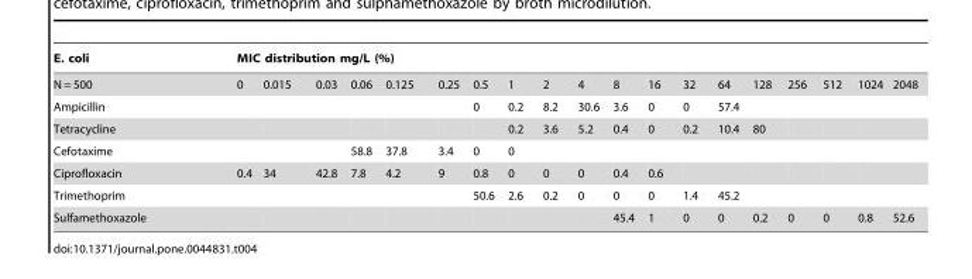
<table><thead><tr><td rowspan="2">E. coli N = 500</td><td colspan="19">MIC distribution mg/L (%)</td></tr><tr><td>0</td><td>0.015</td><td>0.03</td><td>0.06</td><td>0.125</td><td>0.25</td><td>0.5</td><td>1</td><td>2</td><td>4</td><td>8</td><td>16</td><td>32</td><td>64</td><td>128</td><td>256</td><td>512</td><td>1024</td><td>2048</td></tr></thead><tbody><tr><td>Ampicillin</td><td></td><td></td><td></td><td></td><td></td><td></td><td>0</td><td>0.2</td><td>8.2</td><td>30.6</td><td>3.6</td><td>0</td><td>0</td><td>57.4</td><td></td><td></td><td></td><td></td><td></td></tr><tr><td>Tetracycline</td><td></td><td></td><td></td><td></td><td></td><td></td><td></td><td>0.2</td><td>3.6</td><td>5.2</td><td>0.4</td><td>0</td><td>0.2</td><td>10.4</td><td>80</td><td></td><td></td><td></td><td></td></tr><tr><td>Cefotaxime</td><td></td><td></td><td></td><td>58.8</td><td>37.8</td><td>3.4</td><td>0</td><td>0</td><td></td><td></td><td></td><td></td><td></td><td></td><td></td><td></td><td></td><td></td><td></td></tr><tr><td>Ciprofloxacin</td><td>0.4</td><td>34</td><td>42.8</td><td>7.8</td><td>4.2</td><td>9</td><td>0.8</td><td>0</td><td>0</td><td>0</td><td>0.4</td><td>0.6</td><td></td><td></td><td></td><td></td><td></td><td></td><td></td></tr><tr><td>Trimethoprim</td><td></td><td></td><td></td><td></td><td></td><td></td><td>50.6</td><td>2.6</td><td>0.2</td><td>0</td><td>0</td><td>0</td><td>1.4</td><td>45.2</td><td></td><td></td><td></td><td></td><td></td></tr><tr><td>Sulfamethoxazole</td><td></td><td></td><td></td><td></td><td></td><td></td><td></td><td></td><td></td><td></td><td>45.4</td><td>1</td><td>0</td><td>0</td><td>0.2</td><td>0</td><td>0</td><td>0.8</td><td>52.6</td></tr></tbody></table>